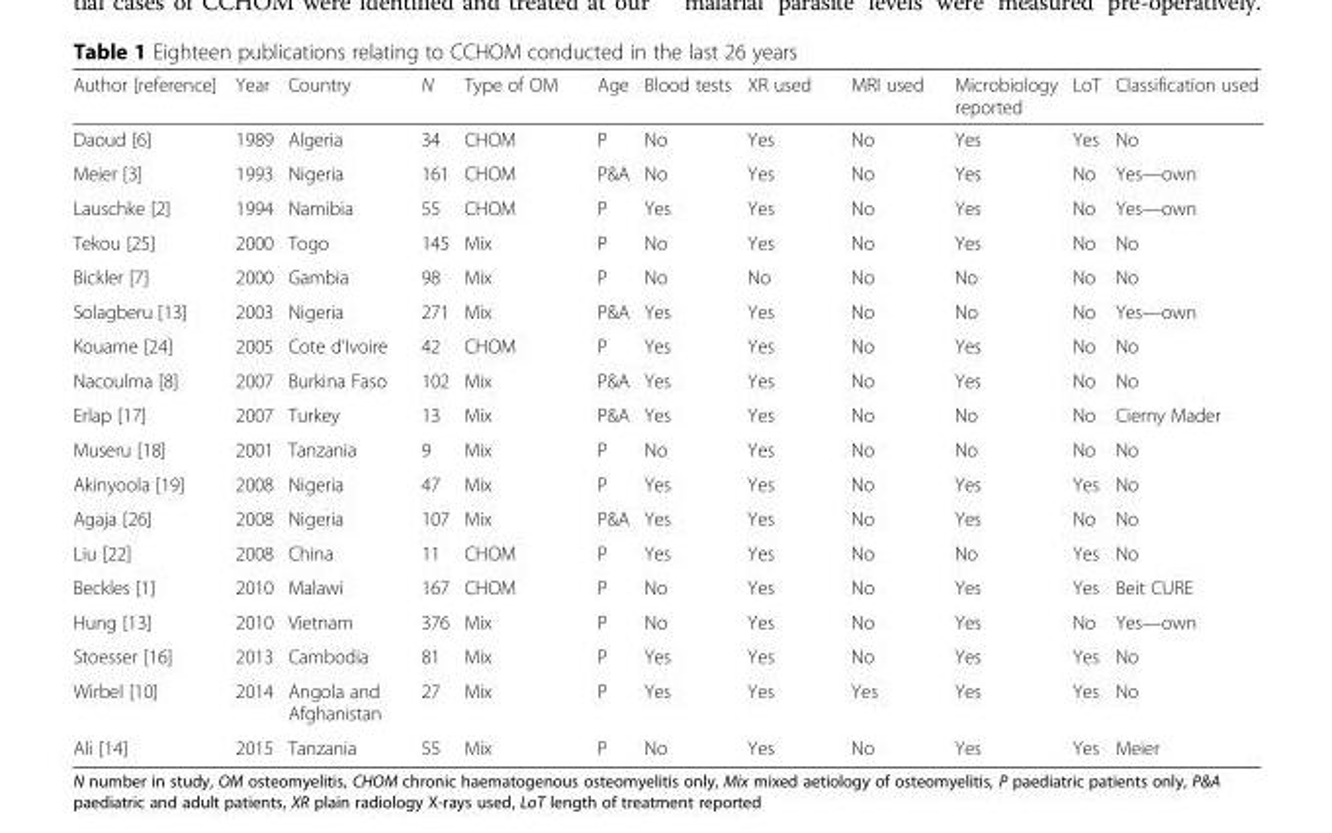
<table><thead><tr><td>Author [reference]</td><td>Year</td><td>Country</td><td>N</td><td>Type of OM</td><td>Age</td><td>Blood tests</td><td>XR used</td><td>MRI used</td><td>Microbiology reported</td><td>LoT</td><td>Classification used</td></tr></thead><tbody><tr><td>Daoud [6]</td><td>1989</td><td>Algeria</td><td>34</td><td>CHOM</td><td>P</td><td>No</td><td>Yes</td><td>No</td><td>Yes</td><td>Yes</td><td>No</td></tr><tr><td>Meier [3]</td><td>1993</td><td>Nigeria</td><td>161</td><td>CHOM</td><td>P&amp;A</td><td>No</td><td>Yes</td><td>No</td><td>Yes</td><td>No</td><td>Yes—own</td></tr><tr><td>Lauschke [2]</td><td>1994</td><td>Namibia</td><td>55</td><td>CHOM</td><td>P</td><td>Yes</td><td>Yes</td><td>No</td><td>Yes</td><td>No</td><td>Yes—own</td></tr><tr><td>Tekou [25]</td><td>2000</td><td>Togo</td><td>145</td><td>Mix</td><td>P</td><td>No</td><td>Yes</td><td>No</td><td>Yes</td><td>No</td><td>No</td></tr><tr><td>Bickler [7]</td><td>2000</td><td>Gambia</td><td>98</td><td>Mix</td><td>P</td><td>No</td><td>No</td><td>No</td><td>No</td><td>No</td><td>No</td></tr><tr><td>Solagberu [13]</td><td>2003</td><td>Nigeria</td><td>271</td><td>Mix</td><td>P&amp;A</td><td>Yes</td><td>Yes</td><td>No</td><td>No</td><td>No</td><td>Yes—own</td></tr><tr><td>Kouame [24]</td><td>2005</td><td>Cote d’Ivoire</td><td>42</td><td>CHOM</td><td>P</td><td>Yes</td><td>Yes</td><td>No</td><td>Yes</td><td>No</td><td>No</td></tr><tr><td>Nacoulma [8]</td><td>2007</td><td>Burkina Faso</td><td>102</td><td>Mix</td><td>P&amp;A</td><td>Yes</td><td>Yes</td><td>No</td><td>Yes</td><td>No</td><td>No</td></tr><tr><td>Erlap [17]</td><td>2007</td><td>Turkey</td><td>13</td><td>Mix</td><td>P&amp;A</td><td>Yes</td><td>Yes</td><td>No</td><td>No</td><td>No</td><td>Cierny Mader</td></tr><tr><td>Museru [18]</td><td>2001</td><td>Tanzania</td><td>9</td><td>Mix</td><td>P</td><td>No</td><td>Yes</td><td>No</td><td>No</td><td>No</td><td>No</td></tr><tr><td>Akinyoola [19]</td><td>2008</td><td>Nigeria</td><td>47</td><td>Mix</td><td>P</td><td>Yes</td><td>Yes</td><td>No</td><td>Yes</td><td>Yes</td><td>No</td></tr><tr><td>Agaja [26]</td><td>2008</td><td>Nigeria</td><td>107</td><td>Mix</td><td>P&amp;A</td><td>Yes</td><td>Yes</td><td>No</td><td>Yes</td><td>No</td><td>No</td></tr><tr><td>Liu [22]</td><td>2008</td><td>China</td><td>11</td><td>CHOM</td><td>P</td><td>Yes</td><td>Yes</td><td>No</td><td>No</td><td>Yes</td><td>No</td></tr><tr><td>Beckles [1]</td><td>2010</td><td>Malawi</td><td>167</td><td>CHOM</td><td>P</td><td>No</td><td>Yes</td><td>No</td><td>Yes</td><td>Yes</td><td>Beit CURE</td></tr><tr><td>Hung [13]</td><td>2010</td><td>Vietnam</td><td>376</td><td>Mix</td><td>P</td><td>No</td><td>Yes</td><td>No</td><td>Yes</td><td>No</td><td>Yes—own</td></tr><tr><td>Stoesser [16]</td><td>2013</td><td>Cambodia</td><td>81</td><td>Mix</td><td>P</td><td>Yes</td><td>Yes</td><td>No</td><td>Yes</td><td>Yes</td><td>No</td></tr><tr><td>Wirbel [10]</td><td>2014</td><td>Angola and Afghanistan</td><td>27</td><td>Mix</td><td>P</td><td>Yes</td><td>Yes</td><td>Yes</td><td>Yes</td><td>Yes</td><td>No</td></tr><tr><td>Ali [14]</td><td>2015</td><td>Tanzania</td><td>55</td><td>Mix</td><td>P</td><td>No</td><td>Yes</td><td>No</td><td>Yes</td><td>Yes</td><td>Meier</td></tr></tbody></table>